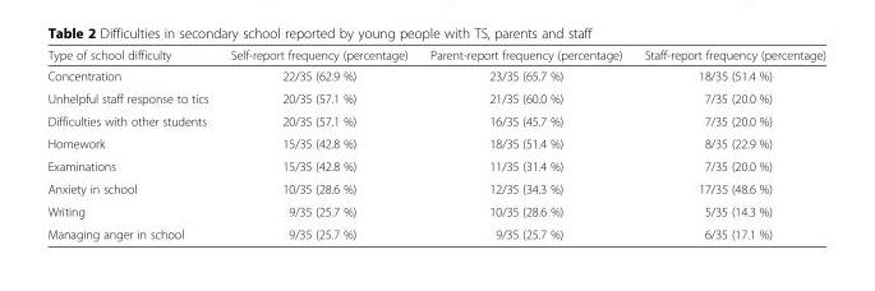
<table><thead><tr><td>Type of school difficulty</td><td>Self-report frequency (percentage)</td><td>Parent-report frequency (percentage)</td><td>Staff-report frequency (percentage)</td></tr></thead><tbody><tr><td>Concentration</td><td>22/35 (62.9 %)</td><td>23/35 (65.7 %)</td><td>18/35 (51.4 %)</td></tr><tr><td>Unhelpful staff response to tics</td><td>20/35 (57.1 %)</td><td>21/35 (60.0 %)</td><td>7/35 (20.0 %)</td></tr><tr><td>Difficulties with other students</td><td>20/35 (57.1 %)</td><td>16/35 (45.7 %)</td><td>7/35 (20.0 %)</td></tr><tr><td>Homework</td><td>15/35 (42.8 %)</td><td>18/35 (51.4 %)</td><td>8/35 (22.9 %)</td></tr><tr><td>Examinations</td><td>15/35 (42.8 %)</td><td>11/35 (31.4 %)</td><td>7/35 (20.0 %)</td></tr><tr><td>Anxiety in school</td><td>10/35 (28.6 %)</td><td>12/35 (34.3 %)</td><td>17/35 (48.6 %)</td></tr><tr><td>Writing</td><td>9/35 (25.7 %)</td><td>10/35 (28.6 %)</td><td>5/35 (14.3 %)</td></tr><tr><td>Managing anger in school</td><td>9/35 (25.7 %)</td><td>9/35 (25.7 %)</td><td>6/35 (17.1 %)</td></tr></tbody></table>